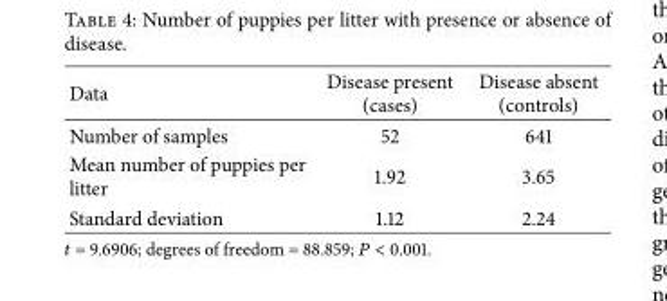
<table><thead><tr><td>Data</td><td>Disease present (cases)</td><td>Disease absent (controls)</td></tr></thead><tbody><tr><td>Number of samples</td><td>52</td><td>641</td></tr><tr><td>Mean number of puppies per litter</td><td>1.92</td><td>3.65</td></tr><tr><td>Standard deviation</td><td>1.12</td><td>2.24</td></tr></tbody></table>